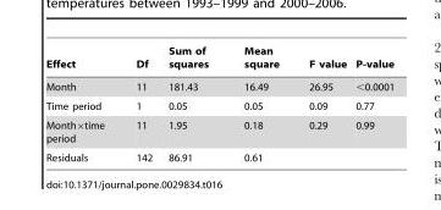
<table><thead><tr><td>Effect</td><td>Df</td><td>Sum of squares</td><td>Mean square</td><td>F value</td><td>P-value</td></tr></thead><tbody><tr><td>Month</td><td>11</td><td>181.43</td><td>16.49</td><td>26.95</td><td>&lt;0.0001</td></tr><tr><td>Time period</td><td>1</td><td>0.05</td><td>0.05</td><td>0.09</td><td>0.77</td></tr><tr><td>Month×time period</td><td>11</td><td>1.95</td><td>0.18</td><td>0.29</td><td>0.99</td></tr><tr><td>Residuals</td><td>142</td><td>86.91</td><td>0.61</td><td></td><td></td></tr></tbody></table>